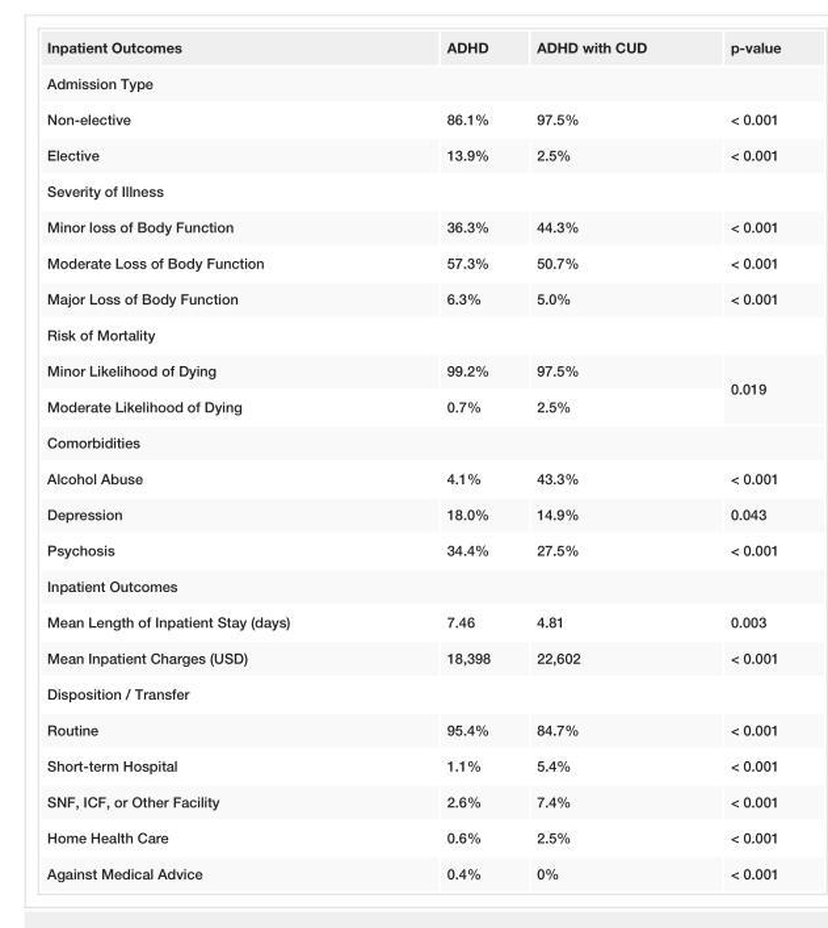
<table><tbody><tr><td>Inpatient Outcomes</td><td>ADHD</td><td>ADHD with CUD</td><td>p-value</td></tr><tr><td colspan="4">Admission Type</td></tr><tr><td>Non-elective</td><td>86.1%</td><td>97.5%</td><td>&lt; 0.001</td></tr><tr><td>Elective</td><td>13.9%</td><td>2.5%</td><td>&lt; 0.001</td></tr><tr><td colspan="4">Severity of Illness</td></tr><tr><td>Minor loss of Body Function</td><td>36.3%</td><td>44.3%</td><td>&lt; 0.001</td></tr><tr><td>Moderate Loss of Body Function</td><td>57.3%</td><td>50.7%</td><td>&lt; 0.001</td></tr><tr><td>Major Loss of Body Function</td><td>6.3%</td><td>5.0%</td><td>&lt; 0.001</td></tr><tr><td colspan="4">Risk of Mortality</td></tr><tr><td>Minor Likelihood of Dying</td><td>99.2%</td><td>97.5%</td><td rowspan="2">0.019</td></tr><tr><td>Moderate Likelihood of Dying</td><td>0.7%</td><td>2.5%</td></tr><tr><td colspan="4">Comorbidities</td></tr><tr><td>Alcohol Abuse</td><td>4.1%</td><td>43.3%</td><td>&lt; 0.001</td></tr><tr><td>Depression</td><td>18.0%</td><td>14.9%</td><td>0.043</td></tr><tr><td>Psychosis</td><td>34.4%</td><td>27.5%</td><td>&lt; 0.001</td></tr><tr><td colspan="4">Inpatient Outcomes</td></tr><tr><td>Mean Length of Inpatient Stay (days)</td><td>7.46</td><td>4.81</td><td>0.003</td></tr><tr><td>Mean Inpatient Charges (USD)</td><td>18,398</td><td>22,602</td><td>&lt; 0.001</td></tr><tr><td colspan="4">Disposition / Transfer</td></tr><tr><td>Routine</td><td>95.4%</td><td>84.7%</td><td>&lt; 0.001</td></tr><tr><td>Short-term Hospital</td><td>1.1%</td><td>5.4%</td><td>&lt; 0.001</td></tr><tr><td>SNF, ICF, or Other Facility</td><td>2.6%</td><td>7.4%</td><td>&lt; 0.001</td></tr><tr><td>Home Health Care</td><td>0.6%</td><td>2.5%</td><td>&lt; 0.001</td></tr><tr><td>Against Medical Advice</td><td>0.4%</td><td>0%</td><td>&lt; 0.001</td></tr></tbody></table>